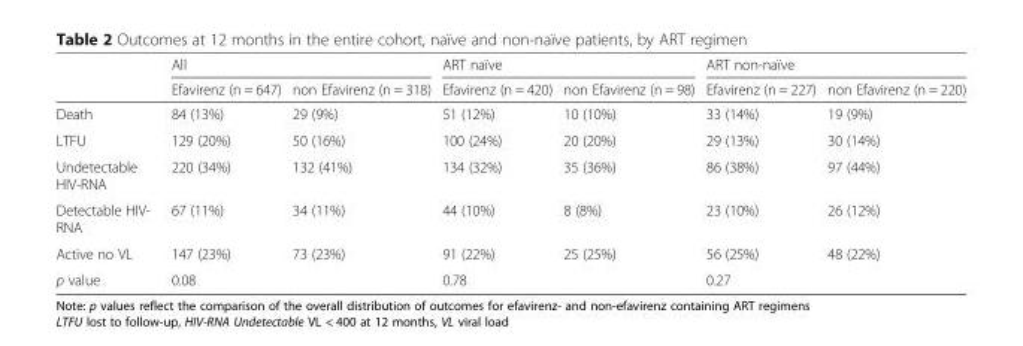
<table><thead><tr><td rowspan="2"></td><td colspan="2">All</td><td colspan="2">ART naïve</td><td colspan="2">ART non-naïve</td></tr><tr><td>Efavirenz (n = 647)</td><td>non Efavirenz (n = 318)</td><td>Efavirenz (n = 420)</td><td>non Efavirenz (n = 98)</td><td>Efavirenz (n = 227)</td><td>non Efavirenz (n = 220)</td></tr></thead><tbody><tr><td>Death</td><td>84 (13%)</td><td>29 (9%)</td><td>51 (12%)</td><td>10 (10%)</td><td>33 (14%)</td><td>19 (9%)</td></tr><tr><td>LTFU</td><td>129 (20%)</td><td>50 (16%)</td><td>100 (24%)</td><td>20 (20%)</td><td>29 (13%)</td><td>30 (14%)</td></tr><tr><td>Undetectable HIV-RNA</td><td>220 (34%)</td><td>132 (41%)</td><td>134 (32%)</td><td>35 (36%)</td><td>86 (38%)</td><td>97 (44%)</td></tr><tr><td>Detectable HIV- RNA</td><td>67 (11%)</td><td>34 (11%)</td><td>44 (10%)</td><td>8 (8%)</td><td>23 (10%)</td><td>26 (12%)</td></tr><tr><td>Active no VL</td><td>147 (23%)</td><td>73 (23%)</td><td>91 (22%)</td><td>25 (25%)</td><td>56 (25%)</td><td>48 (22%)</td></tr><tr><td>p value</td><td colspan="2">0.08</td><td colspan="2">0.78</td><td colspan="2">0.27</td></tr></tbody></table>